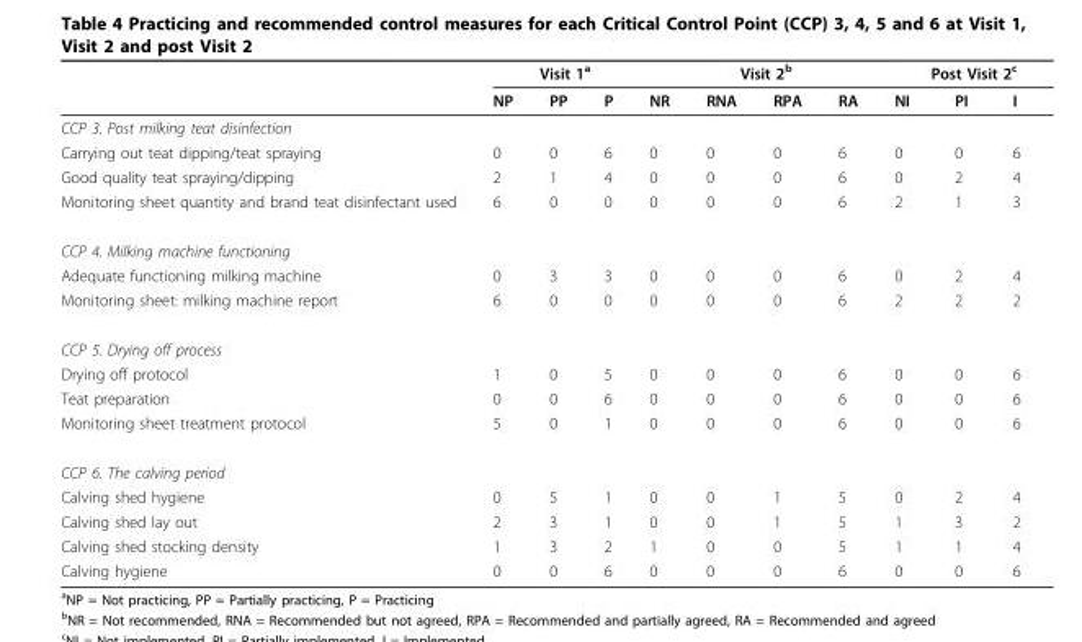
<table><thead><tr><td rowspan="2"></td><td colspan="3">Visit 1<sup>a</sup></td><td colspan="4">Visit 2<sup>b</sup></td><td colspan="3">Post Visit 2<sup>c</sup></td></tr><tr><td>NP</td><td>PP</td><td>P</td><td>NR</td><td>RNA</td><td>RPA</td><td>RA</td><td>NI</td><td>PI</td><td>I</td></tr></thead><tbody><tr><td colspan="11">CCP 3. Post milking teat disinfection</td></tr><tr><td>Carrying out teat dipping/teat spraying</td><td>0</td><td>0</td><td>6</td><td>0</td><td>0</td><td>0</td><td>6</td><td>0</td><td>0</td><td>6</td></tr><tr><td>Good quality teat spraying/dipping</td><td>2</td><td>1</td><td>4</td><td>0</td><td>0</td><td>0</td><td>6</td><td>0</td><td>2</td><td>4</td></tr><tr><td>Monitoring sheet quantity and brand teat disinfectant used</td><td>6</td><td>0</td><td>0</td><td>0</td><td>0</td><td>0</td><td>6</td><td>2</td><td>1</td><td>3</td></tr><tr><td colspan="11">CCP 4. Milking machine functioning</td></tr><tr><td>Adequate functioning milking machine</td><td>0</td><td>3</td><td>3</td><td>0</td><td>0</td><td>0</td><td>6</td><td>0</td><td>2</td><td>4</td></tr><tr><td>Monitoring sheet: milking machine report</td><td>6</td><td>0</td><td>0</td><td>0</td><td>0</td><td>0</td><td>6</td><td>2</td><td>2</td><td>2</td></tr><tr><td colspan="11">CCP 5. Drying off process</td></tr><tr><td>Drying off protocol</td><td>1</td><td>0</td><td>5</td><td>0</td><td>0</td><td>0</td><td>6</td><td>0</td><td>0</td><td>6</td></tr><tr><td>Teat preparation</td><td>0</td><td>0</td><td>6</td><td>0</td><td>0</td><td>0</td><td>6</td><td>0</td><td>0</td><td>6</td></tr><tr><td>Monitoring sheet treatment protocol</td><td>5</td><td>0</td><td>1</td><td>0</td><td>0</td><td>0</td><td>6</td><td>0</td><td>0</td><td>6</td></tr><tr><td colspan="11">CCP 6. The calving period</td></tr><tr><td>Calving shed hygiene</td><td>0</td><td>5</td><td>1</td><td>0</td><td>0</td><td>1</td><td>5</td><td>0</td><td>2</td><td>4</td></tr><tr><td>Calving shed lay out</td><td>2</td><td>3</td><td>1</td><td>0</td><td>0</td><td>1</td><td>5</td><td>1</td><td>3</td><td>2</td></tr><tr><td>Calving shed stocking density</td><td>1</td><td>3</td><td>2</td><td>1</td><td>0</td><td>0</td><td>5</td><td>1</td><td>1</td><td>4</td></tr><tr><td>Calving hygiene</td><td>0</td><td>0</td><td>6</td><td>0</td><td>0</td><td>0</td><td>6</td><td>0</td><td>0</td><td>6</td></tr></tbody></table>